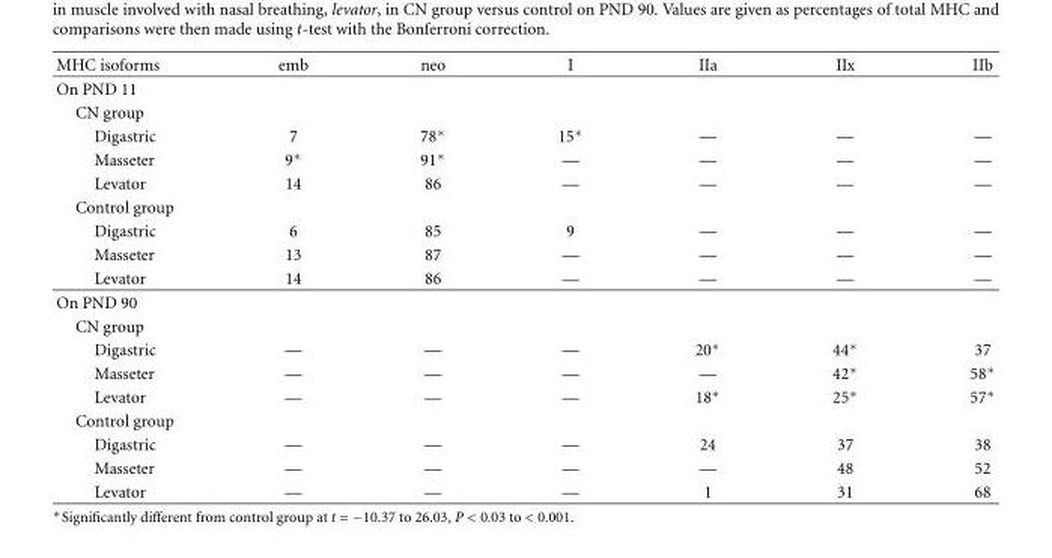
<table><thead><tr><td>MHC isoforms</td><td>emb</td><td>neo</td><td>I</td><td>IIa</td><td>IIx</td><td>IIb</td></tr></thead><tbody><tr><td colspan="7">On PND 11</td></tr><tr><td colspan="7">CN group</td></tr><tr><td>Digastric</td><td>7</td><td>78∗</td><td>15∗</td><td>—</td><td>—</td><td>—</td></tr><tr><td>Masseter</td><td>9∗</td><td>91∗</td><td>—</td><td>—</td><td>—</td><td>—</td></tr><tr><td>Levator</td><td>14</td><td>86</td><td>—</td><td>—</td><td>—</td><td>—</td></tr><tr><td colspan="7">Control group</td></tr><tr><td>Digastric</td><td>6</td><td>85</td><td>9</td><td>—</td><td>—</td><td>—</td></tr><tr><td>Masseter</td><td>13</td><td>87</td><td>—</td><td>—</td><td>—</td><td>—</td></tr><tr><td>Levator</td><td>14</td><td>86</td><td>—</td><td>—</td><td>—</td><td>—</td></tr><tr><td colspan="7">On PND 90</td></tr><tr><td colspan="7">CN group</td></tr><tr><td>Digastric</td><td>—</td><td>—</td><td>—</td><td>20∗</td><td>44∗</td><td>37</td></tr><tr><td>Masseter</td><td>—</td><td>—</td><td>—</td><td>—</td><td>42∗</td><td>58∗</td></tr><tr><td>Levator</td><td>—</td><td>—</td><td>—</td><td>18∗</td><td>25∗</td><td>57∗</td></tr><tr><td colspan="7">Control group</td></tr><tr><td>Digastric</td><td>—</td><td>—</td><td>—</td><td>24</td><td>37</td><td>38</td></tr><tr><td>Masseter</td><td>—</td><td>—</td><td>—</td><td>—</td><td>48</td><td>52</td></tr><tr><td>Levator</td><td>—</td><td>—</td><td>—</td><td>1</td><td>31</td><td>68</td></tr></tbody></table>